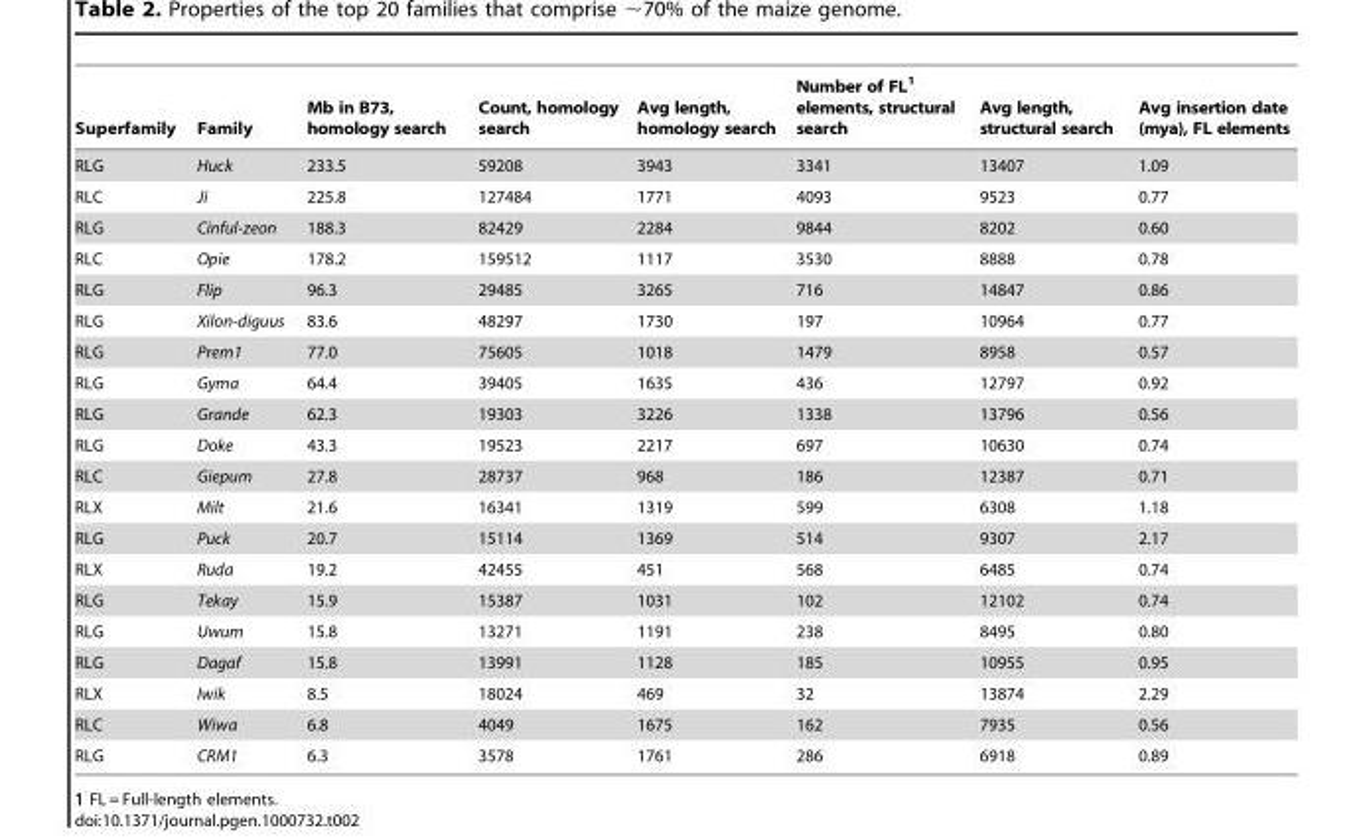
<table><thead><tr><td>Superfamily</td><td>Family</td><td>Mb in B73, homology search</td><td>Count, homology search</td><td>Avg length, homology search</td><td>Number of FL<sup>1</sup> elements, structural search</td><td>Avg length, structural search</td><td>Avg insertion date (mya), FL elements</td></tr></thead><tbody><tr><td>RLG</td><td>Huck</td><td>233.5</td><td>59208</td><td>3943</td><td>3341</td><td>13407</td><td>1.09</td></tr><tr><td>RLC</td><td>Ji</td><td>225.8</td><td>127484</td><td>1771</td><td>4093</td><td>9523</td><td>0.77</td></tr><tr><td>RLG</td><td>Cinful-zeon</td><td>188.3</td><td>82429</td><td>2284</td><td>9844</td><td>8202</td><td>0.60</td></tr><tr><td>RLC</td><td>Opie</td><td>178.2</td><td>159512</td><td>1117</td><td>3530</td><td>8888</td><td>0.78</td></tr><tr><td>RLG</td><td>Flip</td><td>96.3</td><td>29485</td><td>3265</td><td>716</td><td>14847</td><td>0.86</td></tr><tr><td>RLG</td><td>Xilon-diguus</td><td>83.6</td><td>48297</td><td>1730</td><td>197</td><td>10964</td><td>0.77</td></tr><tr><td>RLG</td><td>Prem1</td><td>77.0</td><td>75605</td><td>1018</td><td>1479</td><td>8958</td><td>0.57</td></tr><tr><td>RLG</td><td>Gyma</td><td>64.4</td><td>39405</td><td>1635</td><td>436</td><td>12797</td><td>0.92</td></tr><tr><td>RLG</td><td>Grande</td><td>62.3</td><td>19303</td><td>3226</td><td>1338</td><td>13796</td><td>0.56</td></tr><tr><td>RLG</td><td>Doke</td><td>43.3</td><td>19523</td><td>2217</td><td>697</td><td>10630</td><td>0.74</td></tr><tr><td>RLC</td><td>Giepum</td><td>27.8</td><td>28737</td><td>968</td><td>186</td><td>12387</td><td>0.71</td></tr><tr><td>RLX</td><td>Milt</td><td>21.6</td><td>16341</td><td>1319</td><td>599</td><td>6308</td><td>1.18</td></tr><tr><td>RLG</td><td>Puck</td><td>20.7</td><td>15114</td><td>1369</td><td>514</td><td>9307</td><td>2.17</td></tr><tr><td>RLX</td><td>Ruda</td><td>19.2</td><td>42455</td><td>451</td><td>568</td><td>6485</td><td>0.74</td></tr><tr><td>RLG</td><td>Tekay</td><td>15.9</td><td>15387</td><td>1031</td><td>102</td><td>12102</td><td>0.74</td></tr><tr><td>RLG</td><td>Uwum</td><td>15.8</td><td>13271</td><td>1191</td><td>238</td><td>8495</td><td>0.80</td></tr><tr><td>RLG</td><td>Dagaf</td><td>15.8</td><td>13991</td><td>1128</td><td>185</td><td>10955</td><td>0.95</td></tr><tr><td>RLX</td><td>Iwik</td><td>8.5</td><td>18024</td><td>469</td><td>32</td><td>13874</td><td>2.29</td></tr><tr><td>RLC</td><td>Wiwa</td><td>6.8</td><td>4049</td><td>1675</td><td>162</td><td>7935</td><td>0.56</td></tr><tr><td>RLG</td><td>CRM1</td><td>6.3</td><td>3578</td><td>1761</td><td>286</td><td>6918</td><td>0.89</td></tr></tbody></table>